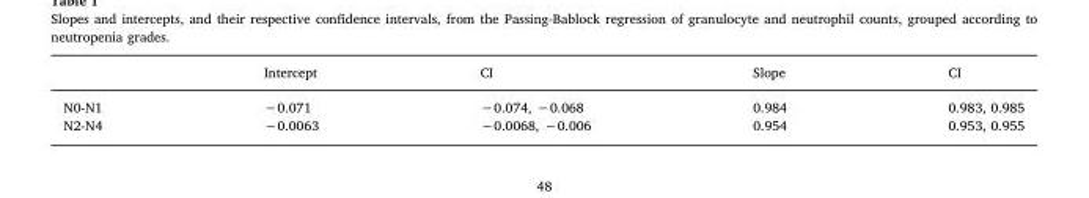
<table><thead><tr><td></td><td>Intercept</td><td>CI</td><td>Slope</td><td>CI</td></tr></thead><tbody><tr><td>N0-N1</td><td>−0.071</td><td>−0.074, −0.068</td><td>0.984</td><td>0.983, 0.985</td></tr><tr><td>N2-N4</td><td>−0.0063</td><td>−0.0068, −0.006</td><td>0.954</td><td>0.953, 0.955</td></tr></tbody></table>